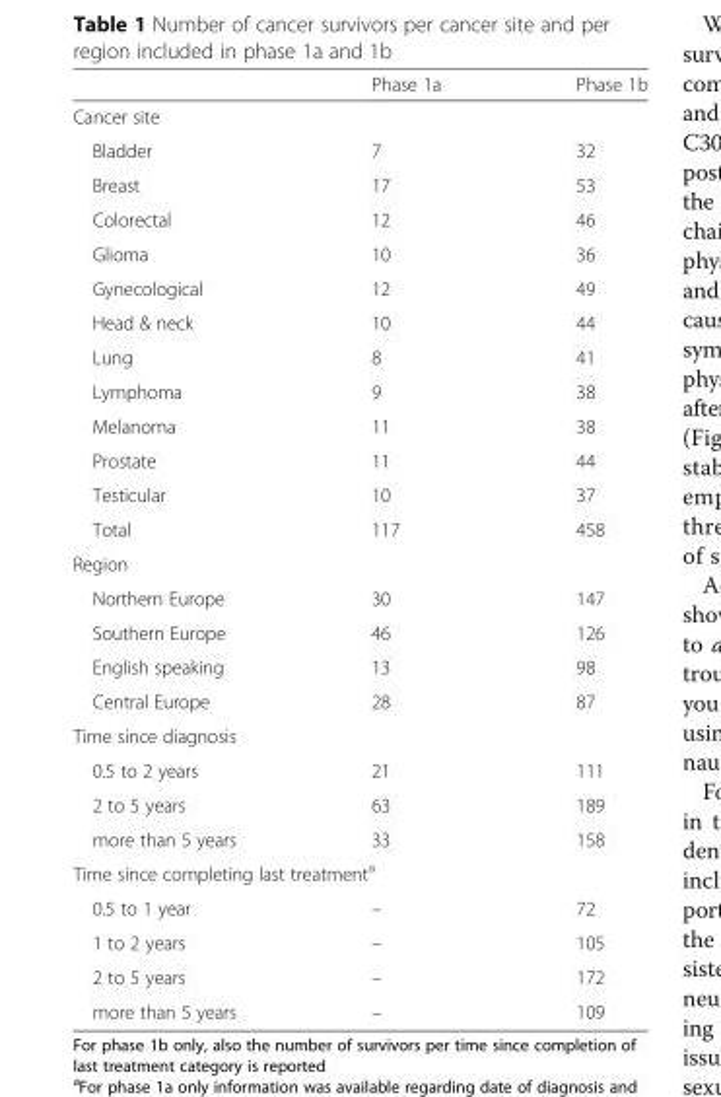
<table><thead><tr><td></td><td>Phase 1a</td><td>Phase 1b</td></tr></thead><tbody><tr><td colspan="3">Cancer site</td></tr><tr><td>Bladder</td><td>7</td><td>32</td></tr><tr><td>Breast</td><td>17</td><td>53</td></tr><tr><td>Colorectal</td><td>12</td><td>46</td></tr><tr><td>Glioma</td><td>10</td><td>36</td></tr><tr><td>Gynecological</td><td>12</td><td>49</td></tr><tr><td>Head &amp; neck</td><td>10</td><td>44</td></tr><tr><td>Lung</td><td>8</td><td>41</td></tr><tr><td>Lymphoma</td><td>9</td><td>38</td></tr><tr><td>Melanoma</td><td>11</td><td>38</td></tr><tr><td>Prostate</td><td>11</td><td>44</td></tr><tr><td>Testicular</td><td>10</td><td>37</td></tr><tr><td>Total</td><td>117</td><td>458</td></tr><tr><td colspan="3">Region</td></tr><tr><td>Northern Europe</td><td>30</td><td>147</td></tr><tr><td>Southern Europe</td><td>46</td><td>126</td></tr><tr><td>English speaking</td><td>13</td><td>98</td></tr><tr><td>Central Europe</td><td>28</td><td>87</td></tr><tr><td colspan="3">Time since diagnosis</td></tr><tr><td>0.5 to 2 years</td><td>21</td><td>111</td></tr><tr><td>2 to 5 years</td><td>63</td><td>189</td></tr><tr><td>more than 5 years</td><td>33</td><td>158</td></tr><tr><td colspan="3">Time since completing last treatment<sup>a</sup></td></tr><tr><td>0.5 to 1 year</td><td>–</td><td>72</td></tr><tr><td>1 to 2 years</td><td>–</td><td>105</td></tr><tr><td>2 to 5 years</td><td>–</td><td>172</td></tr><tr><td>more than 5 years</td><td>–</td><td>109</td></tr></tbody></table>